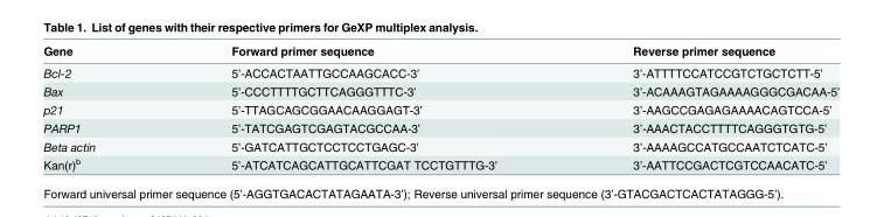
<table><thead><tr><td>Gene</td><td>Forward primer sequence</td><td>Reverse primer sequence</td></tr></thead><tbody><tr><td>Bcl-2</td><td>5’-ACCACTAATTGCCAAGCACC-3’</td><td>3’-ATTTTCCATCCGTCTGCTCTT-5’</td></tr><tr><td>Bax</td><td>5’-CCCTTTTGCTTCAGGGTTTC-3’</td><td>3’-ACAAAGTAGAAAAGGGCGACAA-5’</td></tr><tr><td>p21</td><td>5’-TTAGCAGCGGAACAAGGAGT-3’</td><td>3’-AAGCCGAGAGAAAACAGTCCA-5’</td></tr><tr><td>PARP1</td><td>5’-TATCGAGTCGAGTACGCCAA-3’</td><td>3’-AAACTACCTTTTCAGGGTGTG-5’</td></tr><tr><td>Beta actin</td><td>5’-GATCATTGCTCCTCCTGAGC-3’</td><td>3’-AAAAGCCATGCCAATCTCATC-5’</td></tr><tr><td>Kan(r)<sup>b</sup></td><td>5’-ATCATCAGCATTGCATTCGAT TCCTGTTTG-3’</td><td>3’-AATTCCGACTCGTCCAACATC-5’</td></tr></tbody></table>